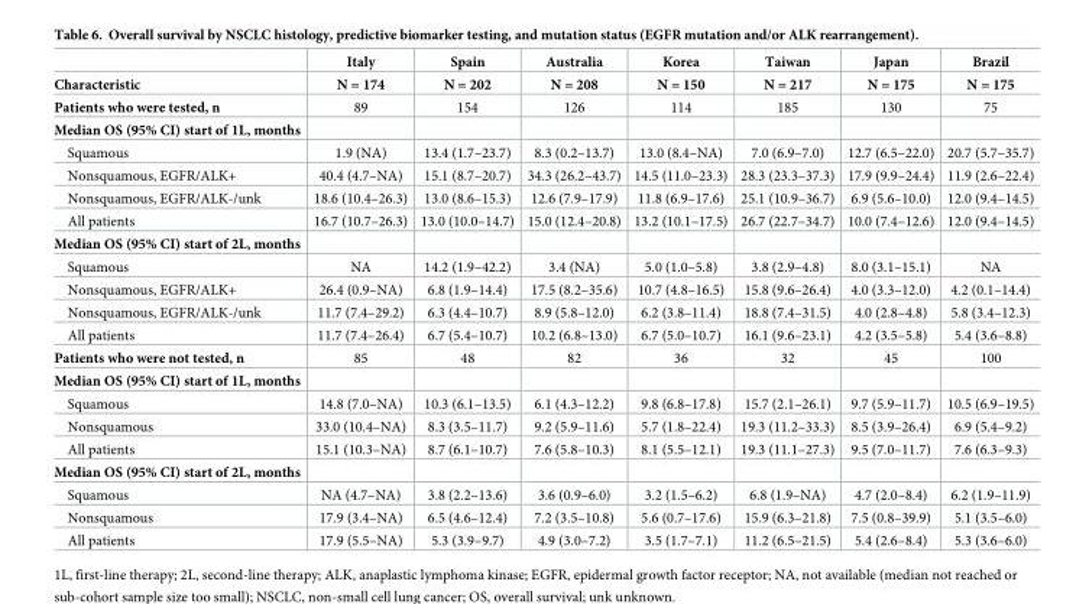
<table><thead><tr><td rowspan="2">Characteristic</td><td rowspan="2">Italy N = 174</td><td rowspan="2">Spain N = 202</td><td rowspan="2">Australia N = 208</td><td rowspan="2">Korea N = 150</td><td rowspan="2">Taiwan N = 217</td><td rowspan="2">Japan N = 175</td><td rowspan="2">Brazil N = 175</td></tr><tr></tr></thead><tbody><tr><td>Patients who were tested, n</td><td>89</td><td>154</td><td>126</td><td>114</td><td>185</td><td>130</td><td>75</td></tr><tr><td colspan="8">Median OS (95% CI) start of 1L, months</td></tr><tr><td>Squamous</td><td>1.9 (NA)</td><td>13.4 (1.7–23.7)</td><td>8.3 (0.2–13.7)</td><td>13.0 (8.4–NA)</td><td>7.0 (6.9–7.0)</td><td>12.7 (6.5–22.0)</td><td>20.7 (5.7–35.7)</td></tr><tr><td>Nonsquamous, EGFR/ALK+</td><td>40.4 (4.7–NA)</td><td>15.1 (8.7–20.7)</td><td>34.3 (26.2–43.7)</td><td>14.5 (11.0–23.3)</td><td>28.3 (23.3–37.3)</td><td>17.9 (9.9–24.4)</td><td>11.9 (2.6–22.4)</td></tr><tr><td>Nonsquamous, EGFR/ALK-/unk</td><td>18.6 (10.4–26.3)</td><td>13.0 (8.6–15.3)</td><td>12.6 (7.9–17.9)</td><td>11.8 (6.9–17.6)</td><td>25.1 (10.9–36.7)</td><td>6.9 (5.6–10.0)</td><td>12.0 (9.4–14.5)</td></tr><tr><td>All patients</td><td>16.7 (10.7–26.3)</td><td>13.0 (10.0–14.7)</td><td>15.0 (12.4–20.8)</td><td>13.2 (10.1–17.5)</td><td>26.7 (22.7–34.7)</td><td>10.0 (7.4–12.6)</td><td>12.0 (9.4–14.5)</td></tr><tr><td colspan="8">Median OS (95% CI) start of 2L, months</td></tr><tr><td>Squamous</td><td>NA</td><td>14.2 (1.9–42.2)</td><td>3.4 (NA)</td><td>5.0 (1.0–5.8)</td><td>3.8 (2.9–4.8)</td><td>8.0 (3.1–15.1)</td><td>NA</td></tr><tr><td>Nonsquamous, EGFR/ALK+</td><td>26.4 (0.9–NA)</td><td>6.8 (1.9–14.4)</td><td>17.5 (8.2–35.6)</td><td>10.7 (4.8–16.5)</td><td>15.8 (9.6–26.4)</td><td>4.0 (3.3–12.0)</td><td>4.2 (0.1–14.4)</td></tr><tr><td>Nonsquamous, EGFR/ALK-/unk</td><td>11.7 (7.4–29.2)</td><td>6.3 (4.4–10.7)</td><td>8.9 (5.8–12.0)</td><td>6.2 (3.8–11.4)</td><td>18.8 (7.4–31.5)</td><td>4.0 (2.8–4.8)</td><td>5.8 (3.4–12.3)</td></tr><tr><td>All patients</td><td>11.7 (7.4–26.4)</td><td>6.7 (5.4–10.7)</td><td>10.2 (6.8–13.0)</td><td>6.7 (5.0–10.7)</td><td>16.1 (9.6–23.1)</td><td>4.2 (3.5–5.8)</td><td>5.4 (3.6–8.8)</td></tr><tr><td>Patients who were not tested, n</td><td>85</td><td>48</td><td>82</td><td>36</td><td>32</td><td>45</td><td>100</td></tr><tr><td colspan="8">Median OS (95% CI) start of 1L, months</td></tr><tr><td>Squamous</td><td>14.8 (7.0–NA)</td><td>10.3 (6.1–13.5)</td><td>6.1 (4.3–12.2)</td><td>9.8 (6.8–17.8)</td><td>15.7 (2.1–26.1)</td><td>9.7 (5.9–11.7)</td><td>10.5 (6.9–19.5)</td></tr><tr><td>Nonsquamous</td><td>33.0 (10.4–NA)</td><td>8.3 (3.5–11.7)</td><td>9.2 (5.9–11.6)</td><td>5.7 (1.8–22.4)</td><td>19.3 (11.2–33.3)</td><td>8.5 (3.9–26.4)</td><td>6.9 (5.4–9.2)</td></tr><tr><td>All patients</td><td>15.1 (10.3–NA)</td><td>8.7 (6.1–10.7)</td><td>7.6 (5.8–10.3)</td><td>8.1 (5.5–12.1)</td><td>19.3 (11.1–27.3)</td><td>9.5 (7.0–11.7)</td><td>7.6 (6.3–9.3)</td></tr><tr><td colspan="8">Median OS (95% CI) start of 2L, months</td></tr><tr><td>Squamous</td><td>NA (4.7–NA)</td><td>3.8 (2.2–13.6)</td><td>3.6 (0.9–6.0)</td><td>3.2 (1.5–6.2)</td><td>6.8 (1.9–NA)</td><td>4.7 (2.0–8.4)</td><td>6.2 (1.9–11.9)</td></tr><tr><td>Nonsquamous</td><td>17.9 (3.4–NA)</td><td>6.5 (4.6–12.4)</td><td>7.2 (3.5–10.8)</td><td>5.6 (0.7–17.6)</td><td>15.9 (6.3–21.8)</td><td>7.5 (0.8–39.9)</td><td>5.1 (3.5–6.0)</td></tr><tr><td>All patients</td><td>17.9 (5.5–NA)</td><td>5.3 (3.9–9.7)</td><td>4.9 (3.0–7.2)</td><td>3.5 (1.7–7.1)</td><td>11.2 (6.5–21.5)</td><td>5.4 (2.6–8.4)</td><td>5.3 (3.6–6.0)</td></tr></tbody></table>